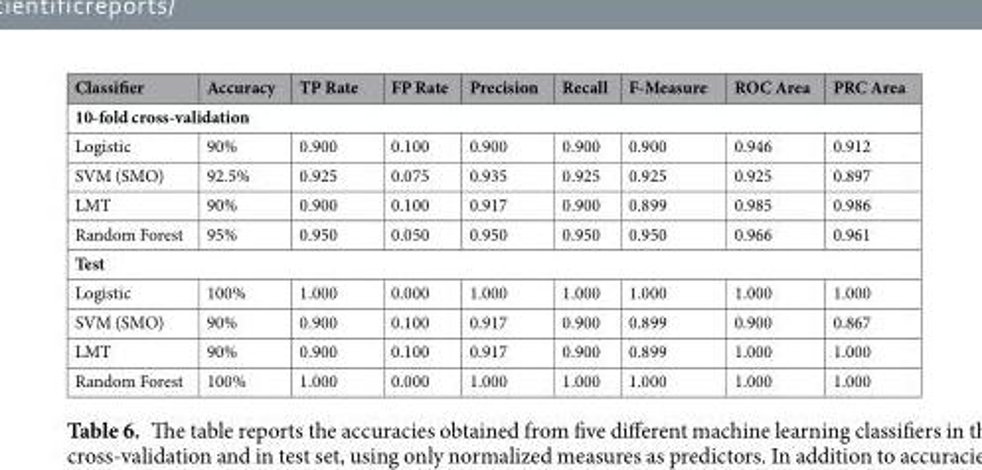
<table><thead><tr><td>Classifier</td><td>Accuracy</td><td>TP Rate</td><td>FP Rate</td><td>Precision</td><td>Recall</td><td>F-Measure</td><td>ROC Area</td><td>PRC Area</td></tr></thead><tbody><tr><td colspan="9">10-fold cross-validation</td></tr><tr><td>Logistic</td><td>90%</td><td>0.900</td><td>0.100</td><td>0.900</td><td>0.900</td><td>0.900</td><td>0.946</td><td>0.912</td></tr><tr><td>SVM (SMO)</td><td>92.5%</td><td>0.925</td><td>0.075</td><td>0.935</td><td>0.925</td><td>0.925</td><td>0.925</td><td>0.897</td></tr><tr><td>LMT</td><td>90%</td><td>0.900</td><td>0.100</td><td>0.917</td><td>0.900</td><td>0.899</td><td>0.985</td><td>0.986</td></tr><tr><td>Random Forest</td><td>95%</td><td>0.950</td><td>0.050</td><td>0.950</td><td>0.950</td><td>0.950</td><td>0.966</td><td>0.961</td></tr><tr><td colspan="9">Test</td></tr><tr><td>Logistic</td><td>100%</td><td>1.000</td><td>0.000</td><td>1.000</td><td>1.000</td><td>1.000</td><td>1.000</td><td>1.000</td></tr><tr><td>SVM (SMO)</td><td>90%</td><td>0.900</td><td>0.100</td><td>0.917</td><td>0.900</td><td>0.899</td><td>0.900</td><td>0.867</td></tr><tr><td>LMT</td><td>90%</td><td>0.900</td><td>0.100</td><td>0.917</td><td>0.900</td><td>0.899</td><td>1.000</td><td>1.000</td></tr><tr><td>Random Forest</td><td>100%</td><td>1.000</td><td>0.000</td><td>1.000</td><td>1.000</td><td>1.000</td><td>1.000</td><td>1.000</td></tr></tbody></table>